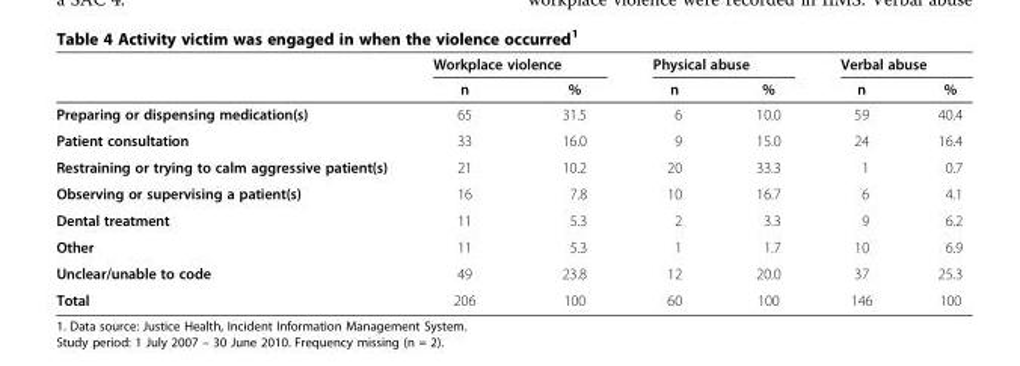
<table><thead><tr><td rowspan="2"></td><td colspan="2">Workplace violence</td><td colspan="2">Physical abuse</td><td colspan="2">Verbal abuse</td></tr><tr><td>n</td><td>%</td><td>n</td><td>%</td><td>n</td><td>%</td></tr></thead><tbody><tr><td>Preparing or dispensing medication(s)</td><td>65</td><td>31.5</td><td>6</td><td>10.0</td><td>59</td><td>40.4</td></tr><tr><td>Patient consultation</td><td>33</td><td>16.0</td><td>9</td><td>15.0</td><td>24</td><td>16.4</td></tr><tr><td>Restraining or trying to calm aggressive patient(s)</td><td>21</td><td>10.2</td><td>20</td><td>33.3</td><td>1</td><td>0.7</td></tr><tr><td>Observing or supervising a patient(s)</td><td>16</td><td>7.8</td><td>10</td><td>16.7</td><td>6</td><td>4.1</td></tr><tr><td>Dental treatment</td><td>11</td><td>5.3</td><td>2</td><td>3.3</td><td>9</td><td>6.2</td></tr><tr><td>Other</td><td>11</td><td>5.3</td><td>1</td><td>1.7</td><td>10</td><td>6.9</td></tr><tr><td>Unclear/unable to code</td><td>49</td><td>23.8</td><td>12</td><td>20.0</td><td>37</td><td>25.3</td></tr><tr><td>Total</td><td>206</td><td>100</td><td>60</td><td>100</td><td>146</td><td>100</td></tr></tbody></table>